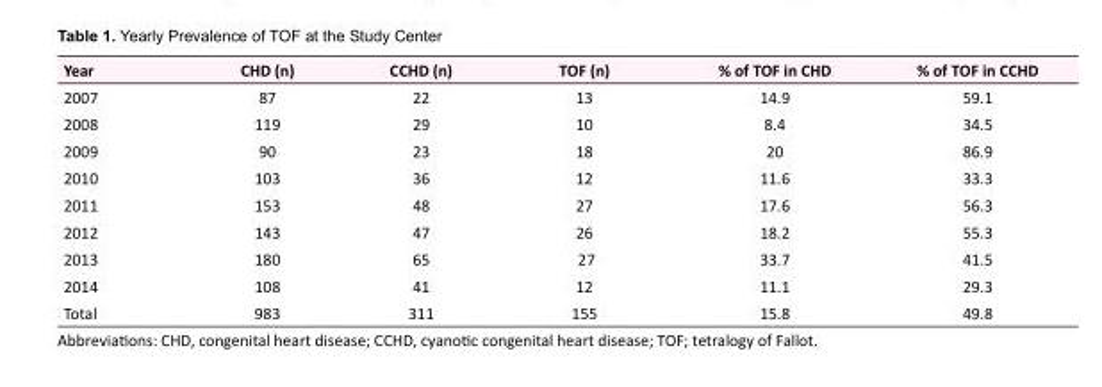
<table><tbody><tr><td>Year</td><td>CHD (n)</td><td>CCHD (n)</td><td>TOF (n)</td><td>% of TOF in CHD</td><td>% of TOF in CCHD</td></tr><tr><td>2007</td><td>87</td><td>22</td><td>13</td><td>14.9</td><td>59.1</td></tr><tr><td>2008</td><td>119</td><td>29</td><td>10</td><td>8.4</td><td>34.5</td></tr><tr><td>2009</td><td>90</td><td>23</td><td>18</td><td>20</td><td>86.9</td></tr><tr><td>2010</td><td>103</td><td>36</td><td>12</td><td>11.6</td><td>33.3</td></tr><tr><td>2011</td><td>153</td><td>48</td><td>27</td><td>17.6</td><td>56.3</td></tr><tr><td>2012</td><td>143</td><td>47</td><td>26</td><td>18.2</td><td>55.3</td></tr><tr><td>2013</td><td>180</td><td>65</td><td>27</td><td>33.7</td><td>41.5</td></tr><tr><td>2014</td><td>108</td><td>41</td><td>12</td><td>11.1</td><td>29.3</td></tr><tr><td>Total</td><td>983</td><td>311</td><td>155</td><td>15.8</td><td>49.8</td></tr></tbody></table>